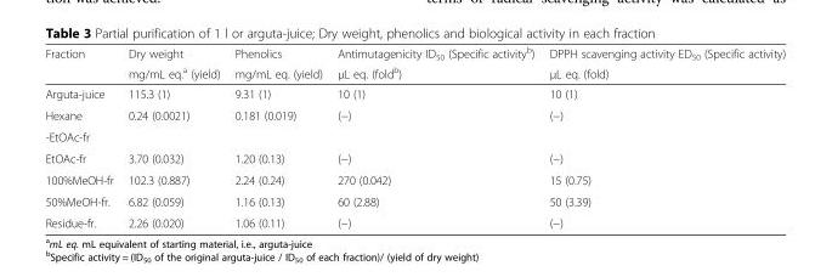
<table><thead><tr><td rowspan="2">Fraction</td><td rowspan="2">Dry weight mg/mL eq.<sup>a</sup> (yield)</td><td rowspan="2">Phenolics mg/mL eq. (yield)</td><td rowspan="2">Antimutagenicity ID<sub>50</sub> (Specific activity<sup>b</sup>) μL eq. (fold<sup>b</sup>)</td><td rowspan="2">DPPH scavenging activity ED<sub>50</sub> (Specific activity) μL eq. (fold)</td></tr><tr></tr></thead><tbody><tr><td>Arguta-juice</td><td>115.3 (1)</td><td>9.31 (1)</td><td>10 (1)</td><td>10 (1)</td></tr><tr><td>Hexane</td><td>0.24 (0.0021)</td><td>0.181 (0.019)</td><td>(−)</td><td>(−)</td></tr><tr><td colspan="5">-EtOAc-fr</td></tr><tr><td>EtOAc-fr</td><td>3.70 (0.032)</td><td>1.20 (0.13)</td><td>(−)</td><td>(−)</td></tr><tr><td>100%MeOH-fr</td><td>102.3 (0.887)</td><td>2.24 (0.24)</td><td>270 (0.042)</td><td>15 (0.75)</td></tr><tr><td>50%MeOH-fr.</td><td>6.82 (0.059)</td><td>1.16 (0.13)</td><td>60 (2.88)</td><td>50 (3.39)</td></tr><tr><td>Residue-fr.</td><td>2.26 (0.020)</td><td>1.06 (0.11)</td><td>(−)</td><td>(−)</td></tr></tbody></table>